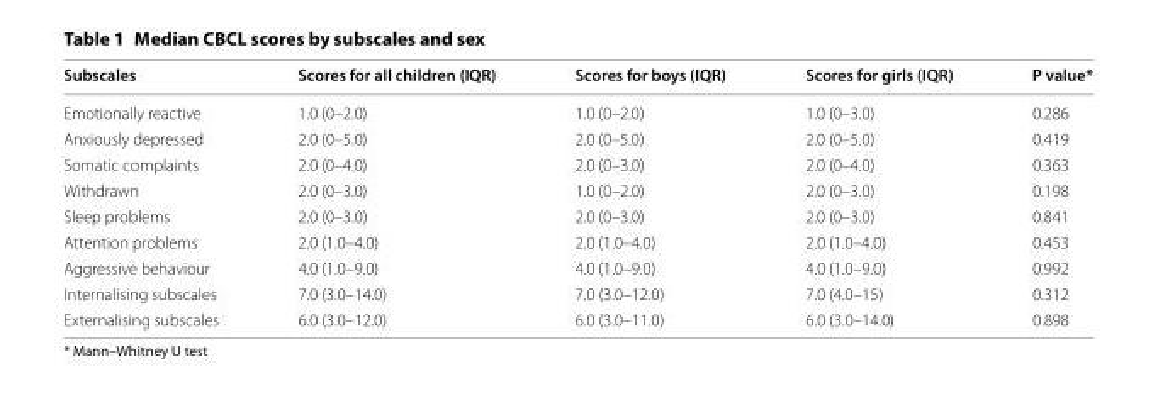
<table><thead><tr><td>Subscales</td><td>Scores for all children (IQR)</td><td>Scores for boys (IQR)</td><td>Scores for girls (IQR)</td><td>P value*</td></tr></thead><tbody><tr><td>Emotionally reactive</td><td>1.0 (0–2.0)</td><td>1.0 (0–2.0)</td><td>1.0 (0–3.0)</td><td>0.286</td></tr><tr><td>Anxiously depressed</td><td>2.0 (0–5.0)</td><td>2.0 (0–5.0)</td><td>2.0 (0–5.0)</td><td>0.419</td></tr><tr><td>Somatic complaints</td><td>2.0 (0–4.0)</td><td>2.0 (0–3.0)</td><td>2.0 (0–4.0)</td><td>0.363</td></tr><tr><td>Withdrawn</td><td>2.0 (0–3.0)</td><td>1.0 (0–2.0)</td><td>2.0 (0–3.0)</td><td>0.198</td></tr><tr><td>Sleep problems</td><td>2.0 (0–3.0)</td><td>2.0 (0–3.0)</td><td>2.0 (0–3.0)</td><td>0.841</td></tr><tr><td>Attention problems</td><td>2.0 (1.0–4.0)</td><td>2.0 (1.0–4.0)</td><td>2.0 (1.0–4.0)</td><td>0.453</td></tr><tr><td>Aggressive behaviour</td><td>4.0 (1.0–9.0)</td><td>4.0 (1.0–9.0)</td><td>4.0 (1.0–9.0)</td><td>0.992</td></tr><tr><td>Internalising subscales</td><td>7.0 (3.0–14.0)</td><td>7.0 (3.0–12.0)</td><td>7.0 (4.0–15)</td><td>0.312</td></tr><tr><td>Externalising subscales</td><td>6.0 (3.0–12.0)</td><td>6.0 (3.0–11.0)</td><td>6.0 (3.0–14.0)</td><td>0.898</td></tr></tbody></table>